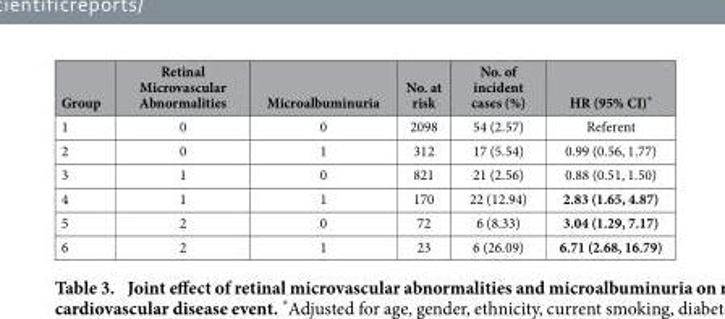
<table><thead><tr><td>Group</td><td>Retinal Microvascular Abnormalities</td><td>Microalbuminuria</td><td>No. at risk</td><td>No. of incident cases (%)</td><td>HR (95% CI)*</td></tr></thead><tbody><tr><td>1</td><td>0</td><td>0</td><td>2098</td><td>54 (2.57)</td><td>Referent</td></tr><tr><td>2</td><td>0</td><td>1</td><td>312</td><td>17 (5.54)</td><td>0.99 (0.56, 1.77)</td></tr><tr><td>3</td><td>1</td><td>0</td><td>821</td><td>21 (2.56)</td><td>0.88 (0.51, 1.50)</td></tr><tr><td>4</td><td>1</td><td>1</td><td>170</td><td>22 (12.94)</td><td>2.83 (1.65, 4.87)</td></tr><tr><td>5</td><td>2</td><td>0</td><td>72</td><td>6 (8.33)</td><td>3.04 (1.29, 7.17)</td></tr><tr><td>6</td><td>2</td><td>1</td><td>23</td><td>6 (26.09)</td><td>6.71 (2.68, 16.79)</td></tr></tbody></table>